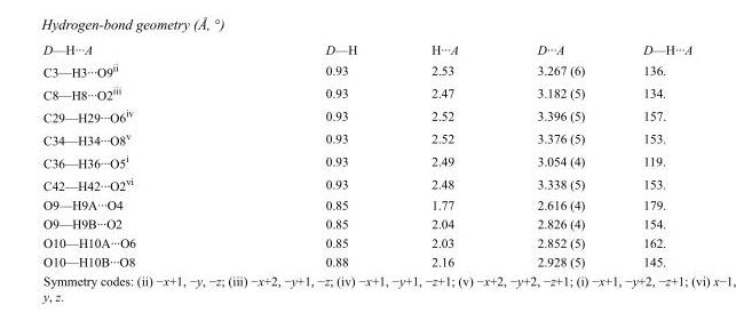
<table><tbody><tr><td>D—H···A</td><td>D—H</td><td>H···A</td><td>D···A</td><td>D—H···A</td></tr><tr><td>C3—H3···O9<sup>ii</sup></td><td>0.93</td><td>2.53</td><td>3.267 (6)</td><td>136.</td></tr><tr><td>C8—H8···O2<sup>iii</sup></td><td>0.93</td><td>2.47</td><td>3.182 (5)</td><td>134.</td></tr><tr><td>C29—H29···O6<sup>iv</sup></td><td>0.93</td><td>2.52</td><td>3.396 (5)</td><td>157.</td></tr><tr><td>C34—H34···O8<sup>v</sup></td><td>0.93</td><td>2.52</td><td>3.376 (5)</td><td>153.</td></tr><tr><td>C36—H36···O5<sup>i</sup></td><td>0.93</td><td>2.49</td><td>3.054 (4)</td><td>119.</td></tr><tr><td>C42—H42···O2<sup>vi</sup></td><td>0.93</td><td>2.48</td><td>3.338 (5)</td><td>153.</td></tr><tr><td>O9—H9A···O4</td><td>0.85</td><td>1.77</td><td>2.616 (4)</td><td>179.</td></tr><tr><td>O9—H9B···O2</td><td>0.85</td><td>2.04</td><td>2.826 (4)</td><td>154.</td></tr><tr><td>O10—H10A···O6</td><td>0.85</td><td>2.03</td><td>2.852 (5)</td><td>162.</td></tr><tr><td>O10—H10B···O8</td><td>0.88</td><td>2.16</td><td>2.928 (5)</td><td>145.</td></tr></tbody></table>